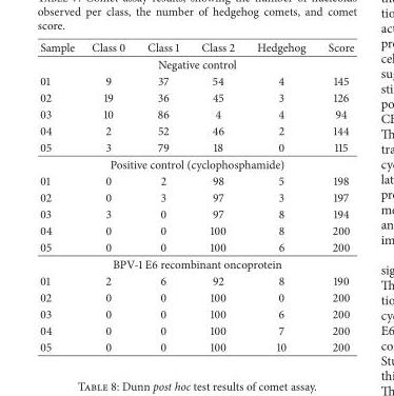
<table><thead><tr><td>Sample</td><td>Class 0</td><td>Class 1</td><td>Class 2</td><td>Hedgehog</td><td>Score</td></tr></thead><tbody><tr><td colspan="6">Negative control</td></tr><tr><td>01</td><td>9</td><td>37</td><td>54</td><td>4</td><td>145</td></tr><tr><td>02</td><td>19</td><td>36</td><td>45</td><td>3</td><td>126</td></tr><tr><td>03</td><td>10</td><td>86</td><td>4</td><td>4</td><td>94</td></tr><tr><td>04</td><td>2</td><td>52</td><td>46</td><td>2</td><td>144</td></tr><tr><td>05</td><td>3</td><td>79</td><td>18</td><td>0</td><td>115</td></tr><tr><td colspan="6">Positive control (cyclophosphamide)</td></tr><tr><td>01</td><td>0</td><td>2</td><td>98</td><td>5</td><td>198</td></tr><tr><td>02</td><td>0</td><td>3</td><td>97</td><td>3</td><td>197</td></tr><tr><td>03</td><td>3</td><td>0</td><td>97</td><td>8</td><td>194</td></tr><tr><td>04</td><td>0</td><td>0</td><td>100</td><td>8</td><td>200</td></tr><tr><td>05</td><td>0</td><td>0</td><td>100</td><td>6</td><td>200</td></tr><tr><td colspan="6">BPV-1 E6 recombinant oncoprotein</td></tr><tr><td>01</td><td>2</td><td>6</td><td>92</td><td>8</td><td>190</td></tr><tr><td>02</td><td>0</td><td>0</td><td>100</td><td>0</td><td>200</td></tr><tr><td>03</td><td>0</td><td>0</td><td>100</td><td>6</td><td>200</td></tr><tr><td>04</td><td>0</td><td>0</td><td>100</td><td>7</td><td>200</td></tr><tr><td>05</td><td>0</td><td>0</td><td>100</td><td>10</td><td>200</td></tr></tbody></table>